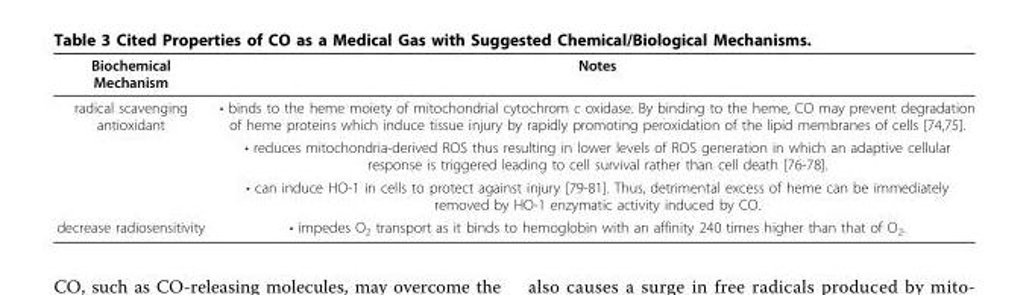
<table><thead><tr><td>Biochemical Mechanism</td><td>Notes</td></tr></thead><tbody><tr><td rowspan="3">radical scavenging antioxidant</td><td>• binds to the heme moiety of mitochondrial cytochrom c oxidase. By binding to the heme, CO may prevent degradation of heme proteins which induce tissue injury by rapidly promoting peroxidation of the lipid membranes of cells [74,75].</td></tr><tr><td>• reduces mitochondria-derived ROS thus resulting in lower levels of ROS generation in which an adaptive cellular response is triggered leading to cell survival rather than cell death [76-78].</td></tr><tr><td>• can induce HO-1 in cells to protect against injury [79-81]. Thus, detrimental excess of heme can be immediately removed by HO-1 enzymatic activity induced by CO.</td></tr><tr><td>decrease radiosensitivity</td><td>• impedes O<sub>2</sub> transport as it binds to hemoglobin with an affinity 240 times higher than that of O<sub>2</sub>.</td></tr></tbody></table>